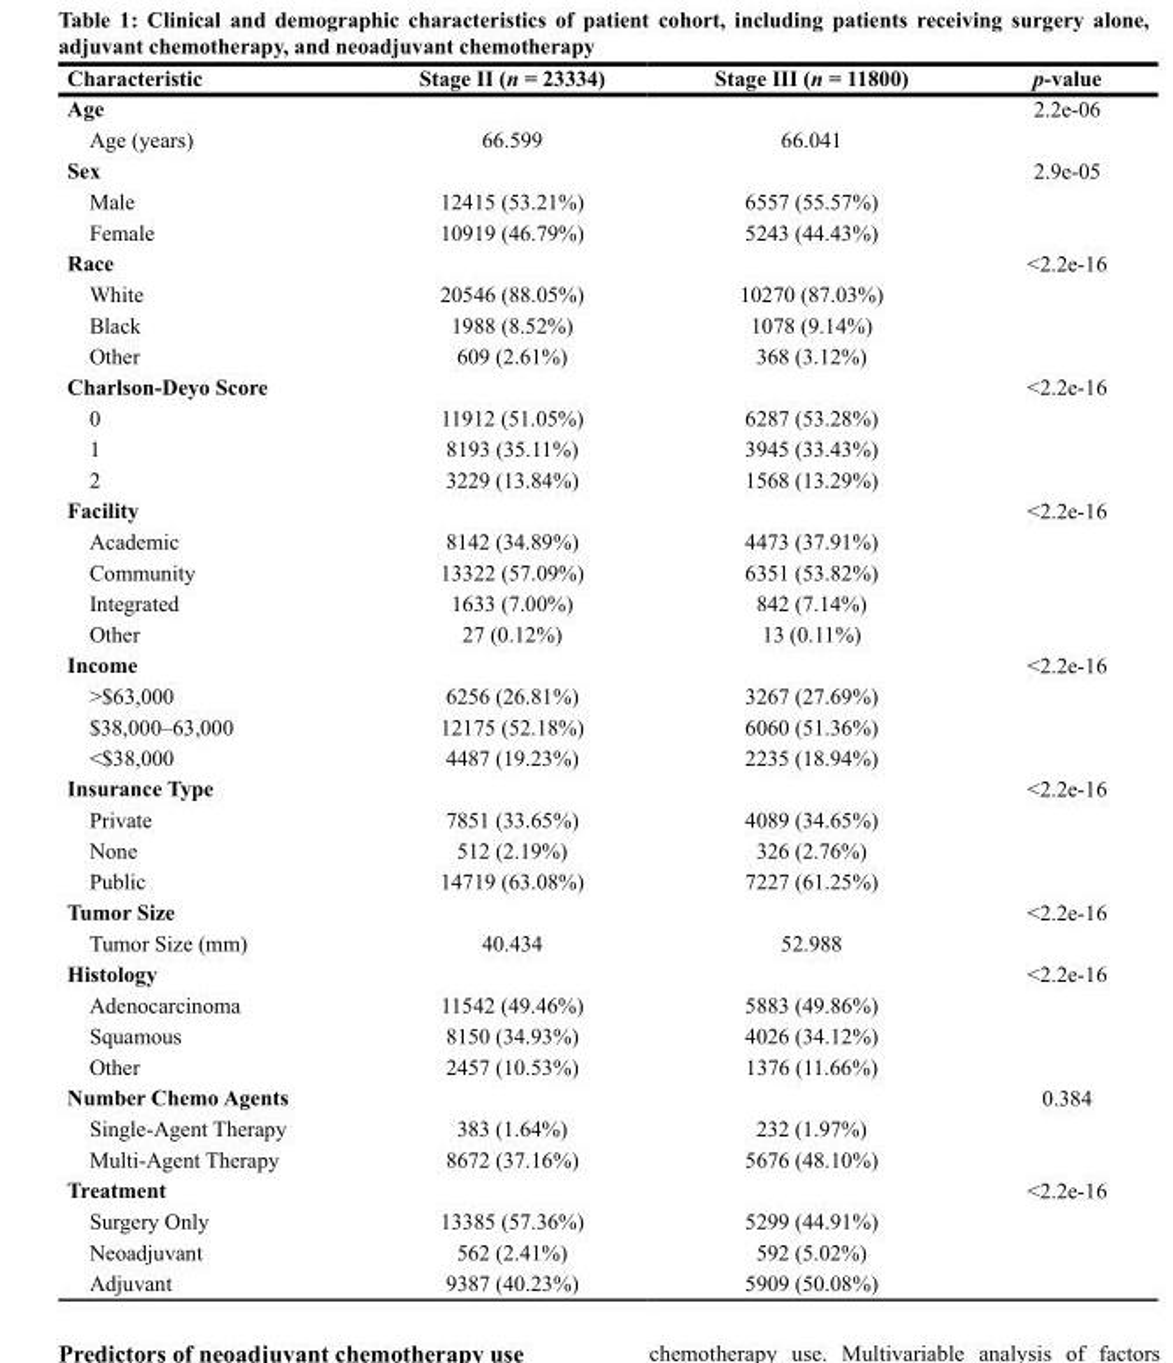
<table><thead><tr><td>Characteristic</td><td>Stage II (n = 23334)</td><td>Stage III (n = 11800)</td><td>p-value</td></tr></thead><tbody><tr><td>Age</td><td></td><td></td><td>2.2e-06</td></tr><tr><td>Age (years)</td><td>66.599</td><td>66.041</td><td></td></tr><tr><td>Sex</td><td></td><td></td><td>2.9e-05</td></tr><tr><td>Male</td><td>12415 (53.21%)</td><td>6557 (55.57%)</td><td></td></tr><tr><td>Female</td><td>10919 (46.79%)</td><td>5243 (44.43%)</td><td></td></tr><tr><td>Race</td><td></td><td></td><td>&lt;2.2e-16</td></tr><tr><td>White</td><td>20546 (88.05%)</td><td>10270 (87.03%)</td><td></td></tr><tr><td>Black</td><td>1988 (8.52%)</td><td>1078 (9.14%)</td><td></td></tr><tr><td>Other</td><td>609 (2.61%)</td><td>368 (3.12%)</td><td></td></tr><tr><td>Charlson-Deyo Score</td><td></td><td></td><td>&lt;2.2e-16</td></tr><tr><td>0</td><td>11912 (51.05%)</td><td>6287 (53.28%)</td><td></td></tr><tr><td>1</td><td>8193 (35.11%)</td><td>3945 (33.43%)</td><td></td></tr><tr><td>2</td><td>3229 (13.84%)</td><td>1568 (13.29%)</td><td></td></tr><tr><td>Facility</td><td></td><td></td><td>&lt;2.2e-16</td></tr><tr><td>Academic</td><td>8142 (34.89%)</td><td>4473 (37.91%)</td><td></td></tr><tr><td>Community</td><td>13322 (57.09%)</td><td>6351 (53.82%)</td><td></td></tr><tr><td>Integrated</td><td>1633 (7.00%)</td><td>842 (7.14%)</td><td></td></tr><tr><td>Other</td><td>27 (0.12%)</td><td>13 (0.11%)</td><td></td></tr><tr><td>Income</td><td></td><td></td><td>&lt;2.2e-16</td></tr><tr><td>&gt;$63,000</td><td>6256 (26.81%)</td><td>3267 (27.69%)</td><td></td></tr><tr><td>$38,000–63,000</td><td>12175 (52.18%)</td><td>6060 (51.36%)</td><td></td></tr><tr><td>&lt;$38,000</td><td>4487 (19.23%)</td><td>2235 (18.94%)</td><td></td></tr><tr><td>Insurance Type</td><td></td><td></td><td>&lt;2.2e-16</td></tr><tr><td>Private</td><td>7851 (33.65%)</td><td>4089 (34.65%)</td><td></td></tr><tr><td>None</td><td>512 (2.19%)</td><td>326 (2.76%)</td><td></td></tr><tr><td>Public</td><td>14719 (63.08%)</td><td>7227 (61.25%)</td><td></td></tr><tr><td>Tumor Size</td><td></td><td></td><td>&lt;2.2e-16</td></tr><tr><td>Tumor Size (mm)</td><td>40.434</td><td>52.988</td><td></td></tr><tr><td>Histology</td><td></td><td></td><td>&lt;2.2e-16</td></tr><tr><td>Adenocarcinoma</td><td>11542 (49.46%)</td><td>5883 (49.86%)</td><td></td></tr><tr><td>Squamous</td><td>8150 (34.93%)</td><td>4026 (34.12%)</td><td></td></tr><tr><td>Other</td><td>2457 (10.53%)</td><td>1376 (11.66%)</td><td></td></tr><tr><td>Number Chemo Agents</td><td></td><td></td><td>0.384</td></tr><tr><td>Single-Agent Therapy</td><td>383 (1.64%)</td><td>232 (1.97%)</td><td></td></tr><tr><td>Multi-Agent Therapy</td><td>8672 (37.16%)</td><td>5676 (48.10%)</td><td></td></tr><tr><td>Treatment</td><td></td><td></td><td>&lt;2.2e-16</td></tr><tr><td>Surgery Only</td><td>13385 (57.36%)</td><td>5299 (44.91%)</td><td></td></tr><tr><td>Neoadjuvant</td><td>562 (2.41%)</td><td>592 (5.02%)</td><td></td></tr><tr><td>Adjuvant</td><td>9387 (40.23%)</td><td>5909 (50.08%)</td><td></td></tr></tbody></table>